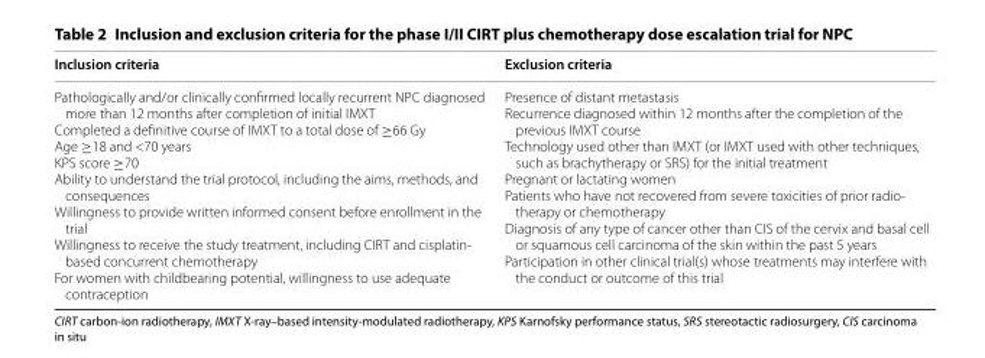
<table><thead><tr><td>Inclusion criteria</td><td>Exclusion criteria</td></tr></thead><tbody><tr><td>Pathologically and/or clinically confirmed locally recurrent NPC diagnosed more than 12 months after completion of initial IMXT Completed a definitive course of IMXT to a total dose of ≥66 Gy Age ≥18 and &lt;70 years KPS score ≥70 Ability to understand the trial protocol, including the aims, methods, and consequences Willingness to provide written informed consent before enrollment in the trial Willingness to receive the study treatment, including CIRT and cisplatin- based concurrent chemotherapy For women with childbearing potential, willingness to use adequate contraception</td><td>Presence of distant metastasis Recurrence diagnosed within 12 months after the completion of the previous IMXT course Technology used other than IMXT (or IMXT used with other techniques, such as brachytherapy or SRS) for the initial treatment Pregnant or lactating women Patients who have not recovered from severe toxicities of prior radio- therapy or chemotherapy Diagnosis of any type of cancer other than CIS of the cervix and basal cell or squamous cell carcinoma of the skin within the past 5 years Participation in other clinical trial(s) whose treatments may interfere with the conduct or outcome of this trial</td></tr></tbody></table>